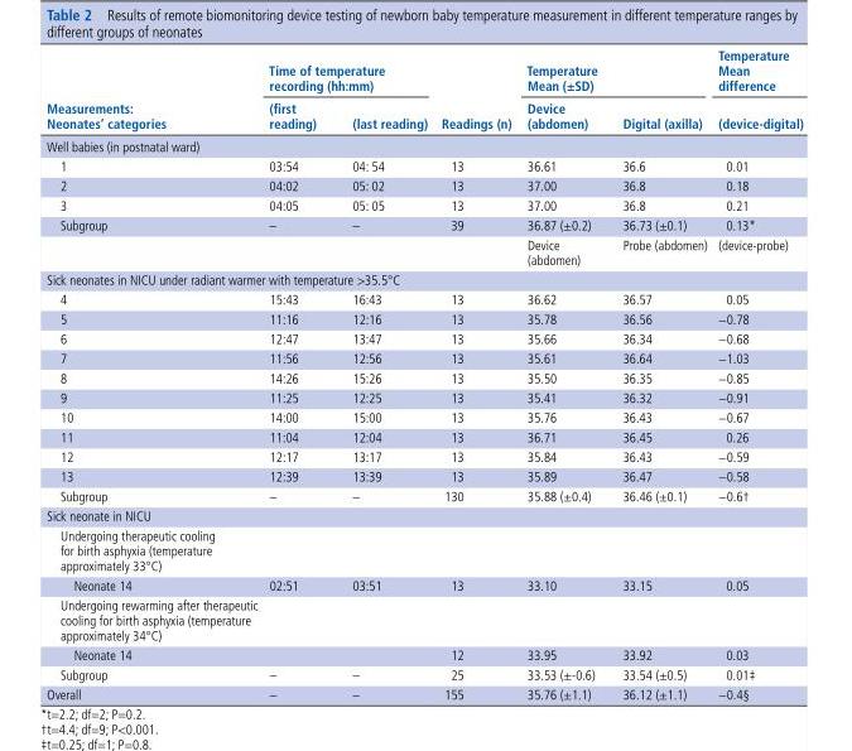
<table><thead><tr><td rowspan="2">Measurements: neonates’ categories</td><td colspan="2">time of temperature recording (hh:mm)</td><td rowspan="2">readings (n)</td><td colspan="2">temperature Mean (±SD)</td><td rowspan="2">temperature Mean difference (device-digital)</td></tr><tr><td>(first reading)</td><td>(last reading)</td><td>Device (abdomen)</td><td>Digital (axilla)</td></tr></thead><tbody><tr><td colspan="7">Well babies (in postnatal ward)</td></tr><tr><td>1</td><td>03:54</td><td>04: 54</td><td>13</td><td>36.61</td><td>36.6</td><td>0.01</td></tr><tr><td>2</td><td>04:02</td><td>05: 02</td><td>13</td><td>37.00</td><td>36.8</td><td>0.18</td></tr><tr><td>3</td><td>04:05</td><td>05: 05</td><td>13</td><td>37.00</td><td>36.8</td><td>0.21</td></tr><tr><td>Subgroup</td><td>–</td><td>–</td><td>39</td><td>36.87 (±0.2)</td><td>36.73 (±0.1)</td><td>0.13*</td></tr><tr><td colspan="4"></td><td>Device (abdomen)</td><td>Probe (abdomen)</td><td>(device-probe)</td></tr><tr><td colspan="7">Sick neonates in NICU under radiant warmer with temperature &gt;35.5°C</td></tr><tr><td>4</td><td>15:43</td><td>16:43</td><td>13</td><td>36.62</td><td>36.57</td><td>0.05</td></tr><tr><td>5</td><td>11:16</td><td>12:16</td><td>13</td><td>35.78</td><td>36.56</td><td>−0.78</td></tr><tr><td>6</td><td>12:47</td><td>13:47</td><td>13</td><td>35.66</td><td>36.34</td><td>−0.68</td></tr><tr><td>7</td><td>11:56</td><td>12:56</td><td>13</td><td>35.61</td><td>36.64</td><td>−1.03</td></tr><tr><td>8</td><td>14:26</td><td>15:26</td><td>13</td><td>35.50</td><td>36.35</td><td>−0.85</td></tr><tr><td>9</td><td>11:25</td><td>12:25</td><td>13</td><td>35.41</td><td>36.32</td><td>−0.91</td></tr><tr><td>10</td><td>14:00</td><td>15:00</td><td>13</td><td>35.76</td><td>36.43</td><td>−0.67</td></tr><tr><td>11</td><td>11:04</td><td>12:04</td><td>13</td><td>36.71</td><td>36.45</td><td>0.26</td></tr><tr><td>12</td><td>12:17</td><td>13:17</td><td>13</td><td>35.84</td><td>36.43</td><td>−0.59</td></tr><tr><td>13</td><td>12:39</td><td>13:39</td><td>13</td><td>35.89</td><td>36.47</td><td>−0.58</td></tr><tr><td>Subgroup</td><td>–</td><td>–</td><td>130</td><td>35.88 (±0.4)</td><td>36.46 (±0.1)</td><td>−0.6†</td></tr><tr><td colspan="7">Sick neonate in NICU</td></tr><tr><td colspan="7">Undergoing therapeutic cooling for birth asphyxia (temperature approximately 33°C)</td></tr><tr><td>Neonate 14</td><td>02:51</td><td>03:51</td><td>13</td><td>33.10</td><td>33.15</td><td>0.05</td></tr><tr><td colspan="7">Undergoing rewarming after therapeutic cooling for birth asphyxia (temperature approximately 34°C)</td></tr><tr><td>Neonate 14</td><td></td><td></td><td>12</td><td>33.95</td><td>33.92</td><td>0.03</td></tr><tr><td>Subgroup</td><td>–</td><td>–</td><td>25</td><td>33.53 (±-0.6)</td><td>33.54 (±0.5)</td><td>0.01‡</td></tr><tr><td>Overall</td><td>–</td><td>–</td><td>155</td><td>35.76 (±1.1)</td><td>36.12 (±1.1)</td><td>−0.4§</td></tr></tbody></table>